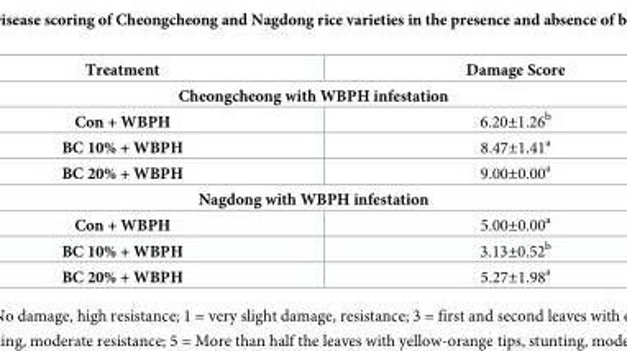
<table><thead><tr><td>Treatment</td><td>Damage Score</td></tr></thead><tbody><tr><td colspan="2">Cheongcheong with WBPH infestation</td></tr><tr><td>Con + WBPH</td><td>6.20±1.26<sup>b</sup></td></tr><tr><td>BC 10% + WBPH</td><td>8.47±1.41<sup>a</sup></td></tr><tr><td>BC 20% + WBPH</td><td>9.00±0.00<sup>a</sup></td></tr><tr><td colspan="2">Nagdong with WBPH infestation</td></tr><tr><td>Con + WBPH</td><td>5.00±0.00<sup>a</sup></td></tr><tr><td>BC 10% + WBPH</td><td>3.13±0.52<sup>b</sup></td></tr><tr><td>BC 20% + WBPH</td><td>5.27±1.98<sup>a</sup></td></tr></tbody></table>